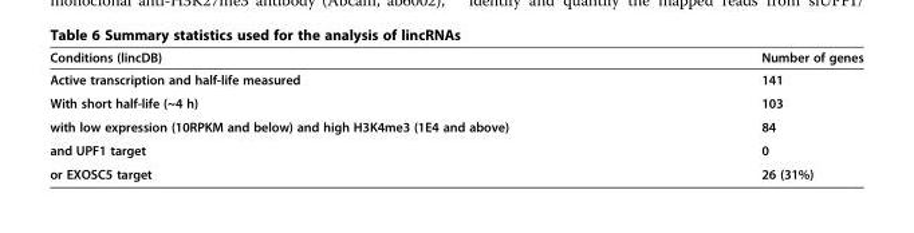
<table><thead><tr><td>Conditions (lincDB)</td><td>Number of genes</td></tr></thead><tbody><tr><td>Active transcription and half-life measured</td><td>141</td></tr><tr><td>With short half-life (~4 h)</td><td>103</td></tr><tr><td>with low expression (10RPKM and below) and high H3K4me3 (1E4 and above)</td><td>84</td></tr><tr><td>and UPF1 target</td><td>0</td></tr><tr><td>or EXOSC5 target</td><td>26 (31%)</td></tr></tbody></table>